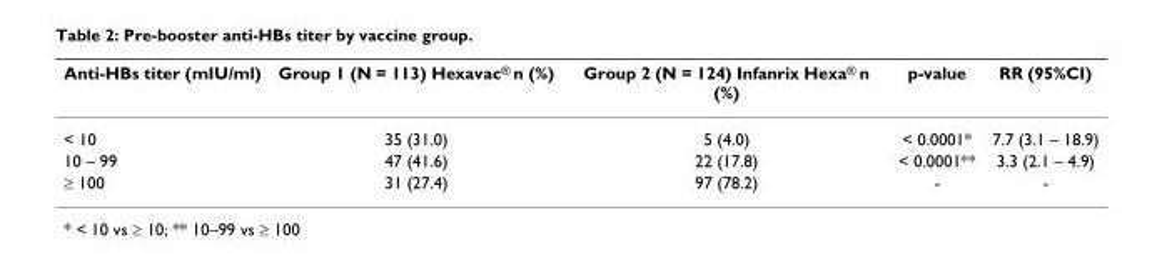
<table><thead><tr><td>Anti-HBs titer (mIU/ml)</td><td>Group 1 (N = 113) Hexavac<sup>®</sup> n (%)</td><td>Group 2 (N = 124) Infanrix Hexa<sup>®</sup> n (%)</td><td>p-value</td><td>RR (95%CI)</td></tr></thead><tbody><tr><td>&lt; 10</td><td>35 (31.0)</td><td>5 (4.0)</td><td>&lt; 0.0001*</td><td>7.7 (3.1 – 18.9)</td></tr><tr><td>10 – 99</td><td>47 (41.6)</td><td>22 (17.8)</td><td>&lt; 0.0001**</td><td>3.3 (2.1 – 4.9)</td></tr><tr><td>≥ 100</td><td>31 (27.4)</td><td>97 (78.2)</td><td>-</td><td>-</td></tr></tbody></table>